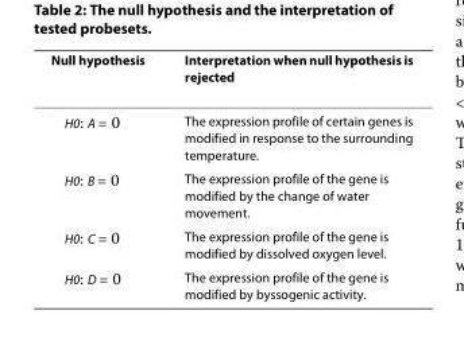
<table><thead><tr><td>Null hypothesis</td><td>Interpretation when null hypothesis is rejected</td></tr></thead><tbody><tr><td>H<sub>0</sub>: A = 0</td><td>The expression profile of certain genes is modified in response to the surrounding temperature.</td></tr><tr><td>H<sub>0</sub>: B = 0</td><td>The expression profile of the gene is modified by the change of water movement.</td></tr><tr><td>H<sub>0</sub>: C = 0</td><td>The expression profile of the gene is modified by dissolved oxygen level.</td></tr><tr><td>H<sub>0</sub>: D = 0</td><td>The expression profile of the gene is modified by byssogenic activity.</td></tr></tbody></table>